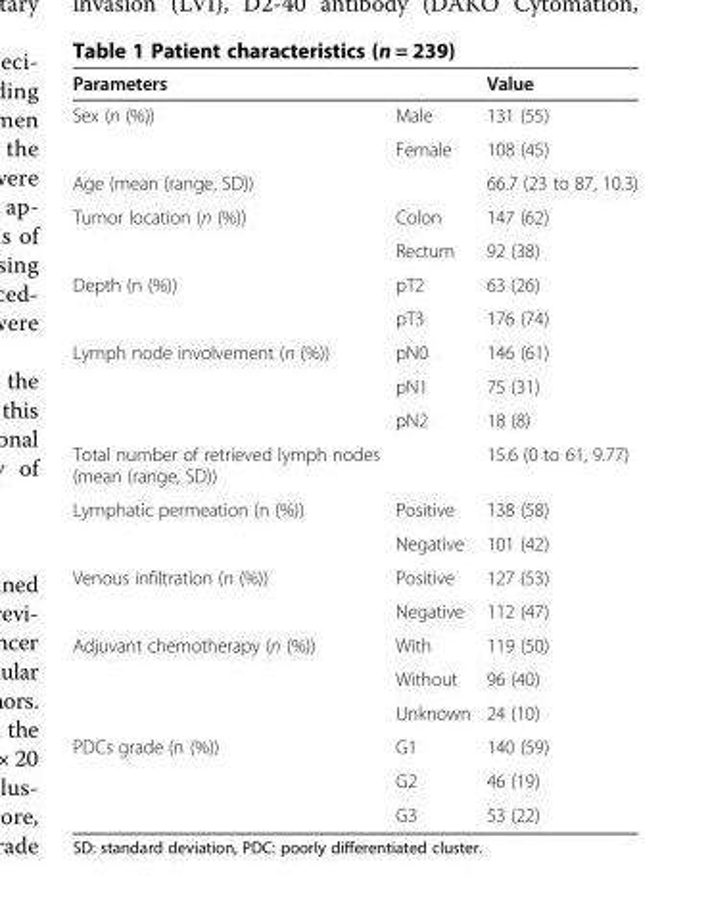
<table><thead><tr><td colspan="2">Parameters</td><td rowspan="2">Value 131 (55)</td></tr><tr><td>Sex (n (%))</td><td>Male</td></tr></thead><tbody><tr><td></td><td>Female</td><td>108 (45)</td></tr><tr><td>Age (mean (range, SD))</td><td></td><td>66.7 (23 to 87, 10.3)</td></tr><tr><td rowspan="2">Tumor location (n (%))</td><td>Colon</td><td>147 (62)</td></tr><tr><td>Rectum</td><td>92 (38)</td></tr><tr><td rowspan="2">Depth (n (%))</td><td>pT2</td><td>63 (26)</td></tr><tr><td>pT3</td><td>176 (74)</td></tr><tr><td rowspan="3">Lymph node involvement (n (%))</td><td>pN0</td><td>146 (61)</td></tr><tr><td>pN1</td><td>75 (31)</td></tr><tr><td>pN2</td><td>18 (8)</td></tr><tr><td>Total number of retrieved lymph nodes (mean (range, SD))</td><td></td><td>15.6 (0 to 61, 9.77)</td></tr><tr><td rowspan="2">Lymphatic permeation (n (%))</td><td>Positive</td><td>138 (58)</td></tr><tr><td>Negative</td><td>101 (42)</td></tr><tr><td rowspan="2">Venous infiltration (n (%))</td><td>Positive</td><td>127 (53)</td></tr><tr><td>Negative</td><td>112 (47)</td></tr><tr><td rowspan="3">Adjuvant chemotherapy (n (%))</td><td>With</td><td>119 (50)</td></tr><tr><td>Without</td><td>96 (40)</td></tr><tr><td>Unknown</td><td>24 (10)</td></tr><tr><td rowspan="3">PDCs grade (n (%))</td><td>G1</td><td>140 (59)</td></tr><tr><td>G2</td><td>46 (19)</td></tr><tr><td>G3</td><td>53 (22)</td></tr></tbody></table>